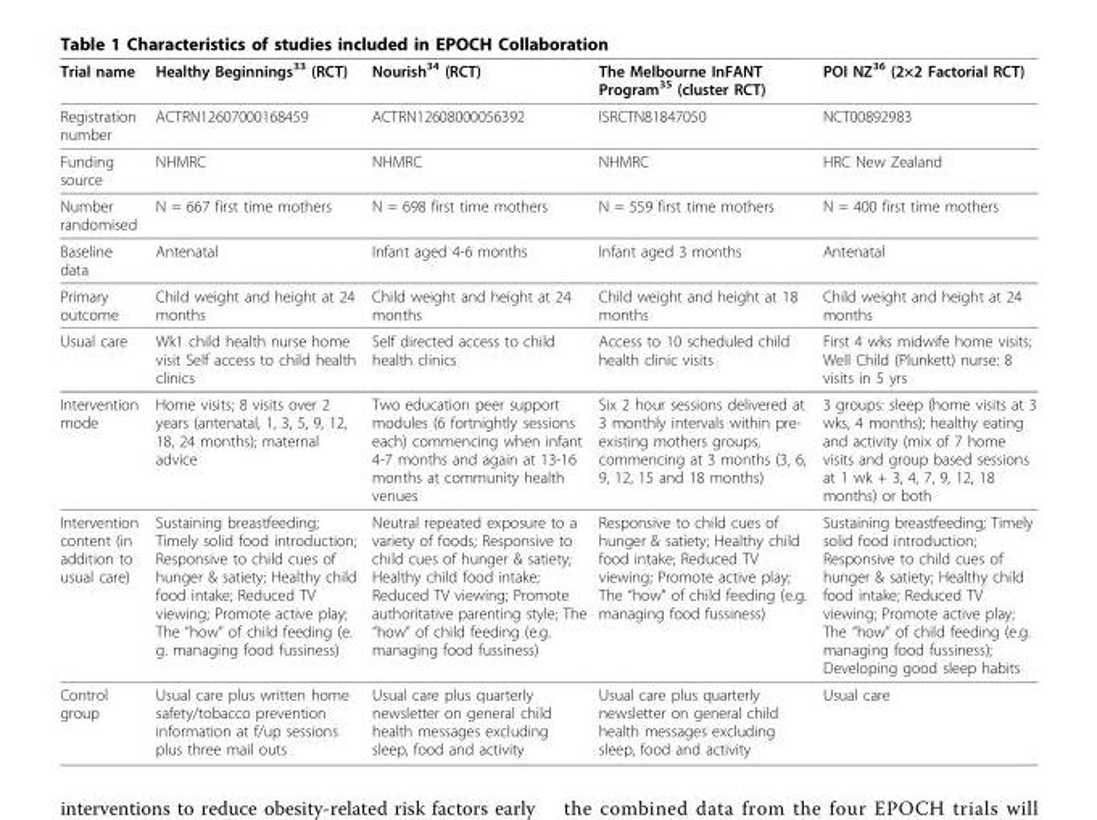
<table><thead><tr><td>Trial name</td><td>Healthy Beginnings<sup>33</sup> (RCT)</td><td>Nourish<sup>34</sup> (RCT)</td><td>The Melbourne InFANT Program<sup>35</sup> (cluster RCT)</td><td>POI NZ<sup>36</sup> (2×2 Factorial RCT)</td></tr></thead><tbody><tr><td>Registration number</td><td>ACTRN12607000168459</td><td>ACTRN12608000056392</td><td>ISRCTN81847050</td><td>NCT00892983</td></tr><tr><td>Funding source</td><td>NHMRC</td><td>NHMRC</td><td>NHMRC</td><td>HRC New Zealand</td></tr><tr><td>Number randomised</td><td>N = 667 first time mothers</td><td>N = 698 first time mothers</td><td>N = 559 first time mothers</td><td>N = 400 first time mothers</td></tr><tr><td>Baseline data</td><td>Antenatal</td><td>Infant aged 4-6 months</td><td>Infant aged 3 months</td><td>Antenatal</td></tr><tr><td>Primary outcome</td><td>Child weight and height at 24 months</td><td>Child weight and height at 24 months</td><td>Child weight and height at 18 months</td><td>Child weight and height at 24 months</td></tr><tr><td>Usual care</td><td>Wk1 child health nurse home visit Self access to child health clinics</td><td>Self directed access to child health clinics</td><td>Access to 10 scheduled child health clinic visits</td><td>First 4 wks midwife home visits; Well Child (Plunkett) nurse: 8 visits in 5 yrs</td></tr><tr><td>Intervention mode</td><td>Home visits; 8 visits over 2 years (antenatal, 1, 3, 5, 9, 12, 18, 24 months); maternal advice</td><td>Two education peer support modules (6 fortnightly sessions each) commencing when infant 4-7 months and again at 13-16 months at community health venues</td><td>Six 2 hour sessions delivered at 3 monthly intervals within pre- existing mothers groups, commencing at 3 months (3, 6, 9, 12, 15 and 18 months)</td><td>3 groups: sleep (home visits at 3 wks, 4 months); healthy eating and activity (mix of 7 home visits and group based sessions at 1 wk + 3, 4, 7, 9, 12, 18 months) or both</td></tr><tr><td>Intervention content (in addition to usual care)</td><td>Sustaining breastfeeding; Timely solid food introduction; Responsive to child cues of hunger &amp; satiety; Healthy child food intake; Reduced TV viewing; Promote active play; The “how” of child feeding (e. g. managing food fussiness)</td><td>Neutral repeated exposure to a variety of foods; Responsive to child cues of hunger &amp; satiety; Healthy child food intake; Reduced TV viewing; Promote authoritative parenting style; The “how” of child feeding (e.g. managing food fussiness)</td><td>Responsive to child cues of hunger &amp; satiety; Healthy child food intake; Reduced TV viewing; Promote active play; The “how” of child feeding (e.g. managing food fussiness)</td><td>Sustaining breastfeeding; Timely solid food introduction; Responsive to child cues of hunger &amp; satiety; Healthy child food intake; Reduced TV viewing; Promote active play; The “how” of child feeding (e.g. managing food fussiness); Developing good sleep habits</td></tr><tr><td>Control group</td><td>Usual care plus written home safety/tobacco prevention information at f/up sessions plus three mail outs</td><td>Usual care plus quarterly newsletter on general child health messages excluding sleep, food and activity</td><td>Usual care plus quarterly newsletter on general child health messages excluding sleep, food and activity</td><td>Usual care</td></tr></tbody></table>